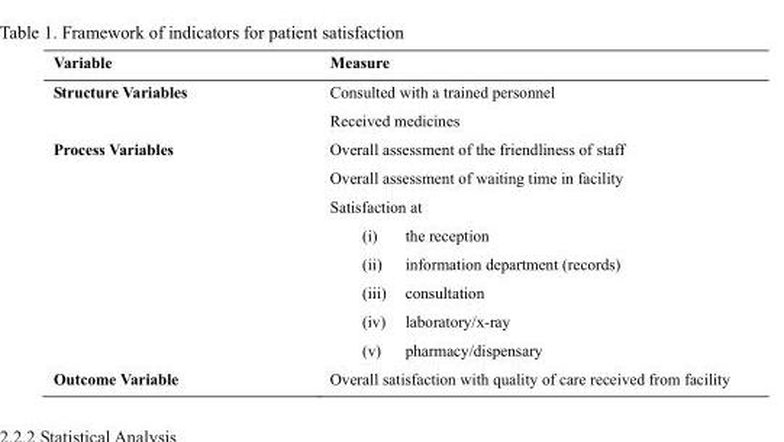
<table><thead><tr><td>Variable</td><td>Measure</td></tr></thead><tbody><tr><td rowspan="2">Structure Variables</td><td>Consulted with a trained personnel</td></tr><tr><td>Received medicines</td></tr><tr><td rowspan="8">Process Variables</td><td>Overall assessment of the friendliness of staff</td></tr><tr><td>Overall assessment of waiting time in facility</td></tr><tr><td>Satisfaction at</td></tr><tr><td>(i) the reception</td></tr><tr><td>(ii) information department (records)</td></tr><tr><td>(iii) consultation</td></tr><tr><td>(iv) laboratory/x-ray</td></tr><tr><td>(v) pharmacy/dispensary</td></tr><tr><td>Outcome Variable</td><td>Overall satisfaction with quality of care received from facility</td></tr></tbody></table>